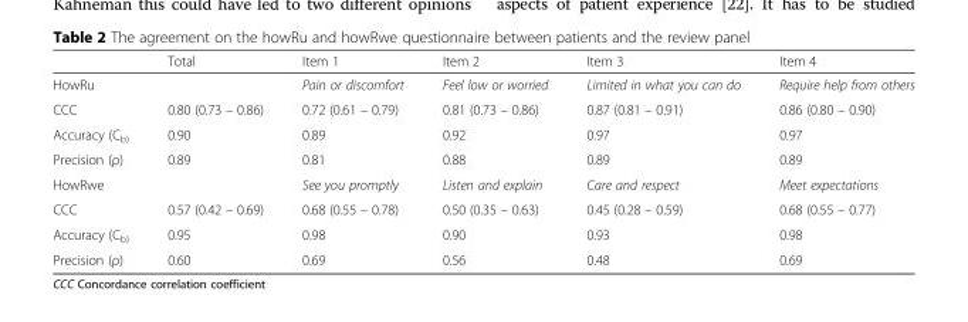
<table><thead><tr><td></td><td>Total</td><td>Item 1</td><td>Item 2</td><td>Item 3</td><td>Item 4</td></tr></thead><tbody><tr><td>HowRu</td><td></td><td>Pain or discomfort</td><td>Feel low or worried</td><td>Limited in what you can do</td><td>Require help from others</td></tr><tr><td>CCC</td><td>0.80 (0.73 – 0.86)</td><td>0.72 (0.61 – 0.79)</td><td>0.81 (0.73 – 0.86)</td><td>0.87 (0.81 – 0.91)</td><td>0.86 (0.80 – 0.90)</td></tr><tr><td>Accuracy (C<sub>b)</sub></td><td>0.90</td><td>0.89</td><td>0.92</td><td>0.97</td><td>0.97</td></tr><tr><td>Precision (ρ)</td><td>0.89</td><td>0.81</td><td>0.88</td><td>0.89</td><td>0.89</td></tr><tr><td>HowRwe</td><td></td><td>See you promptly</td><td>Listen and explain</td><td>Care and respect</td><td>Meet expectations</td></tr><tr><td>CCC</td><td>0.57 (0.42 – 0.69)</td><td>0.68 (0.55 – 0.78)</td><td>0.50 (0.35 – 0.63)</td><td>0.45 (0.28 – 0.59)</td><td>0.68 (0.55 – 0.77)</td></tr><tr><td>Accuracy (C<sub>b)</sub></td><td>0.95</td><td>0.98</td><td>0.90</td><td>0.93</td><td>0.98</td></tr><tr><td>Precision (ρ)</td><td>0.60</td><td>0.69</td><td>0.56</td><td>0.48</td><td>0.69</td></tr></tbody></table>